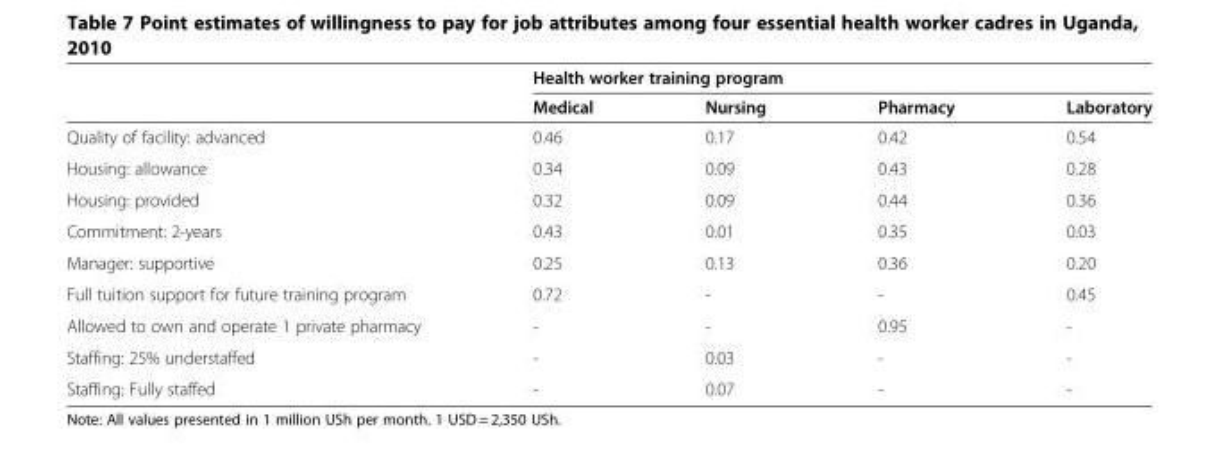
<table><thead><tr><td rowspan="2"></td><td colspan="4">Health worker training program</td></tr><tr><td>Medical</td><td>Nursing</td><td>Pharmacy</td><td>Laboratory</td></tr></thead><tbody><tr><td>Quality of facility: advanced</td><td>0.46</td><td>0.17</td><td>0.42</td><td>0.54</td></tr><tr><td>Housing: allowance</td><td>0.34</td><td>0.09</td><td>0.43</td><td>0.28</td></tr><tr><td>Housing: provided</td><td>0.32</td><td>0.09</td><td>0.44</td><td>0.36</td></tr><tr><td>Commitment: 2-years</td><td>0.43</td><td>0.01</td><td>0.35</td><td>0.03</td></tr><tr><td>Manager: supportive</td><td>0.25</td><td>0.13</td><td>0.36</td><td>0.20</td></tr><tr><td>Full tuition support for future training program</td><td>0.72</td><td>-</td><td>-</td><td>0.45</td></tr><tr><td>Allowed to own and operate 1 private pharmacy</td><td>-</td><td>-</td><td>0.95</td><td>-</td></tr><tr><td>Staffing: 25% understaffed</td><td>-</td><td>0.03</td><td>-</td><td>-</td></tr><tr><td>Staffing: Fully staffed</td><td>-</td><td>0.07</td><td>-</td><td>-</td></tr></tbody></table>